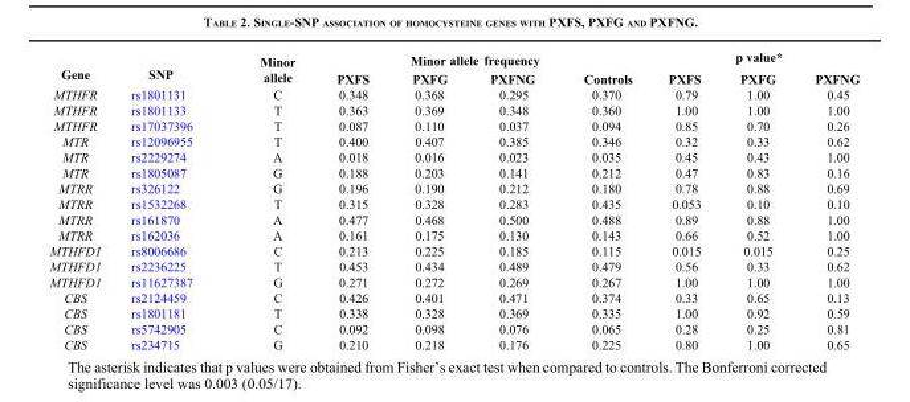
<table><thead><tr><td rowspan="2">Gene</td><td rowspan="2">SNP</td><td rowspan="2">Minor allele</td><td colspan="4">Minor allele frequency</td><td colspan="3">p value*</td></tr><tr><td>PXFS</td><td>PXFG</td><td>PXFNG</td><td>Controls</td><td>PXFS</td><td>PXFG</td><td>PXFNG</td></tr></thead><tbody><tr><td>MTHFR</td><td>rs1801131</td><td>C</td><td>0.348</td><td>0.368</td><td>0.295</td><td>0.370</td><td>0.79</td><td>1.00</td><td>0.45</td></tr><tr><td>MTHFR</td><td>rs1801133</td><td>T</td><td>0.363</td><td>0.369</td><td>0.348</td><td>0.360</td><td>1.00</td><td>1.00</td><td>1.00</td></tr><tr><td>MTHFR</td><td>rs17037396</td><td>T</td><td>0.087</td><td>0.110</td><td>0.037</td><td>0.094</td><td>0.85</td><td>0.70</td><td>0.26</td></tr><tr><td>MTR</td><td>rs12096955</td><td>T</td><td>0.400</td><td>0.407</td><td>0.385</td><td>0.346</td><td>0.32</td><td>0.33</td><td>0.62</td></tr><tr><td>MTR</td><td>rs2229274</td><td>A</td><td>0.018</td><td>0.016</td><td>0.023</td><td>0.035</td><td>0.45</td><td>0.43</td><td>1.00</td></tr><tr><td>MTR</td><td>rs1805087</td><td>G</td><td>0.188</td><td>0.203</td><td>0.141</td><td>0.212</td><td>0.47</td><td>0.83</td><td>0.16</td></tr><tr><td>MTRR</td><td>rs326122</td><td>G</td><td>0.196</td><td>0.190</td><td>0.212</td><td>0.180</td><td>0.78</td><td>0.88</td><td>0.69</td></tr><tr><td>MTRR</td><td>rs1532268</td><td>T</td><td>0.315</td><td>0.328</td><td>0.283</td><td>0.435</td><td>0.053</td><td>0.10</td><td>0.10</td></tr><tr><td>MTRR</td><td>rs161870</td><td>A</td><td>0.477</td><td>0.468</td><td>0.500</td><td>0.488</td><td>0.89</td><td>0.88</td><td>1.00</td></tr><tr><td>MTRR</td><td>rs162036</td><td>A</td><td>0.161</td><td>0.175</td><td>0.130</td><td>0.143</td><td>0.66</td><td>0.52</td><td>1.00</td></tr><tr><td>MTHFD1</td><td>rs8006686</td><td>C</td><td>0.213</td><td>0.225</td><td>0.185</td><td>0.115</td><td>0.015</td><td>0.015</td><td>0.25</td></tr><tr><td>MTHFD1</td><td>rs2236225</td><td>T</td><td>0.453</td><td>0.434</td><td>0.489</td><td>0.479</td><td>0.56</td><td>0.33</td><td>0.62</td></tr><tr><td>MTHFD1</td><td>rs11627387</td><td>G</td><td>0.271</td><td>0.272</td><td>0.269</td><td>0.267</td><td>1.00</td><td>1.00</td><td>1.00</td></tr><tr><td>CBS</td><td>rs2124459</td><td>C</td><td>0.426</td><td>0.401</td><td>0.471</td><td>0.374</td><td>0.33</td><td>0.65</td><td>0.13</td></tr><tr><td>CBS</td><td>rs1801181</td><td>T</td><td>0.338</td><td>0.328</td><td>0.369</td><td>0.335</td><td>1.00</td><td>0.92</td><td>0.59</td></tr><tr><td>CBS</td><td>rs5742905</td><td>C</td><td>0.092</td><td>0.098</td><td>0.076</td><td>0.065</td><td>0.28</td><td>0.25</td><td>0.81</td></tr><tr><td>CBS</td><td>rs234715</td><td>G</td><td>0.210</td><td>0.218</td><td>0.176</td><td>0.225</td><td>0.80</td><td>1.00</td><td>0.65</td></tr></tbody></table>